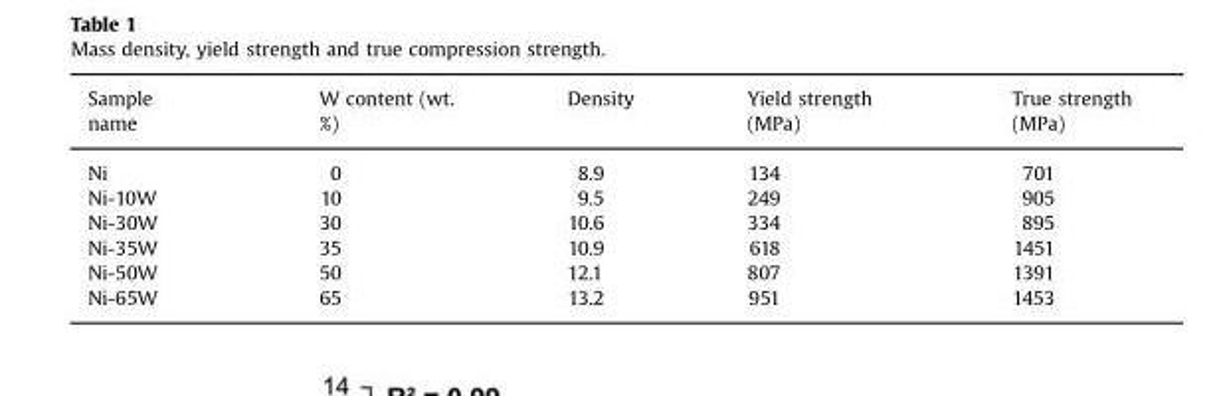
<table><thead><tr><td>Sample name</td><td>W content (wt. %)</td><td>Density</td><td>Yield strength (MPa)</td><td>True strength (MPa)</td></tr></thead><tbody><tr><td>Ni</td><td>0</td><td>8.9</td><td>134</td><td>701</td></tr><tr><td>Ni-10W</td><td>10</td><td>9.5</td><td>249</td><td>905</td></tr><tr><td>Ni-30W</td><td>30</td><td>10.6</td><td>334</td><td>895</td></tr><tr><td>Ni-35W</td><td>35</td><td>10.9</td><td>618</td><td>1451</td></tr><tr><td>Ni-50W</td><td>50</td><td>12.1</td><td>807</td><td>1391</td></tr><tr><td>Ni-65W</td><td>65</td><td>13.2</td><td>951</td><td>1453</td></tr></tbody></table>